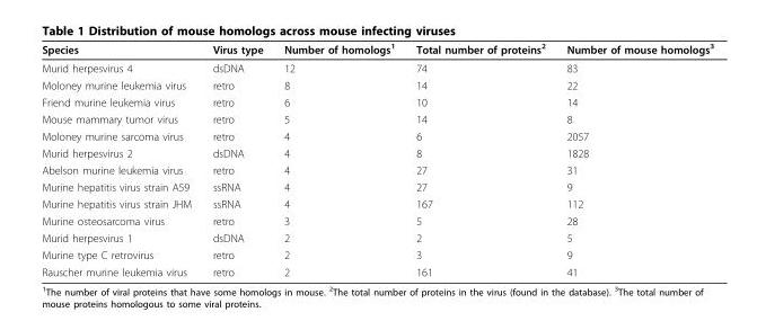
<table><thead><tr><td>Species</td><td>Virus type</td><td>Number of homologs<sup>1</sup></td><td>Total number of proteins<sup>2</sup></td><td>Number of mouse homologs<sup>3</sup></td></tr></thead><tbody><tr><td>Murid herpesvirus 4</td><td>dsDNA</td><td>12</td><td>74</td><td>83</td></tr><tr><td>Moloney murine leukemia virus</td><td>retro</td><td>8</td><td>14</td><td>22</td></tr><tr><td>Friend murine leukemia virus</td><td>retro</td><td>6</td><td>10</td><td>14</td></tr><tr><td>Mouse mammary tumor virus</td><td>retro</td><td>5</td><td>14</td><td>8</td></tr><tr><td>Moloney murine sarcoma virus</td><td>retro</td><td>4</td><td>6</td><td>2057</td></tr><tr><td>Murid herpesvirus 2</td><td>dsDNA</td><td>4</td><td>8</td><td>1828</td></tr><tr><td>Abelson murine leukemia virus</td><td>retro</td><td>4</td><td>27</td><td>31</td></tr><tr><td>Murine hepatitis virus strain A59</td><td>ssRNA</td><td>4</td><td>27</td><td>9</td></tr><tr><td>Murine hepatitis virus strain JHM</td><td>ssRNA</td><td>4</td><td>167</td><td>112</td></tr><tr><td>Murine osteosarcoma virus</td><td>retro</td><td>3</td><td>5</td><td>28</td></tr><tr><td>Murid herpesvirus 1</td><td>dsDNA</td><td>2</td><td>2</td><td>5</td></tr><tr><td>Murine type C retrovirus</td><td>retro</td><td>2</td><td>3</td><td>9</td></tr><tr><td>Rauscher murine leukemia virus</td><td>retro</td><td>2</td><td>161</td><td>41</td></tr></tbody></table>